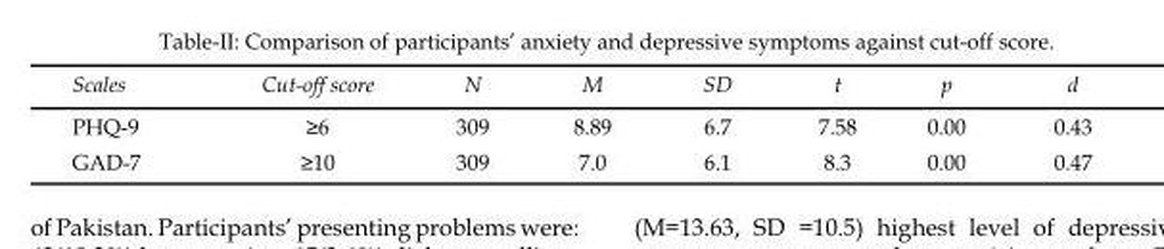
<table><thead><tr><td>Scales</td><td>Cut-off score</td><td>N</td><td>M</td><td>SD</td><td>t</td><td>p</td><td>d</td></tr></thead><tbody><tr><td>PHQ-9</td><td>≥6</td><td>309</td><td>8.89</td><td>6.7</td><td>7.58</td><td>0.00</td><td>0.43</td></tr><tr><td>GAD-7</td><td>≥10</td><td>309</td><td>7.0</td><td>6.1</td><td>8.3</td><td>0.00</td><td>0.47</td></tr></tbody></table>